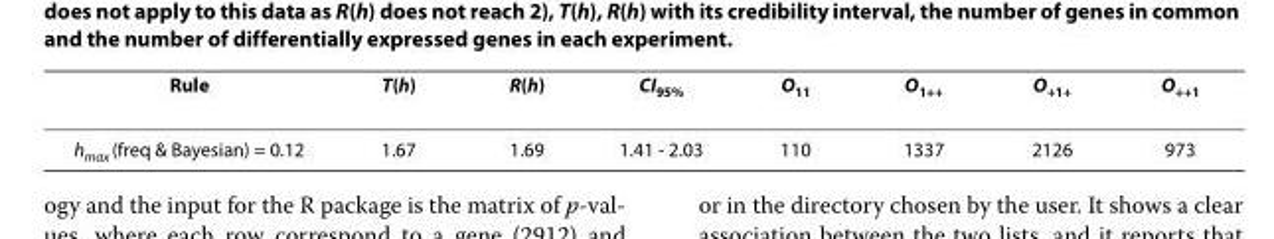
<table><thead><tr><td>Rule</td><td>T(h)</td><td>R(h)</td><td>CI<sub>95%</sub></td><td>O<sub>11</sub></td><td>O<sub>1++</sub></td><td>O<sub>+1+</sub></td><td>O<sub>++1</sub></td></tr></thead><tbody><tr><td>h<sub>max</sub> (freq &amp; Bayesian) = 0.12</td><td>1.67</td><td>1.69</td><td>1.41 - 2.03</td><td>110</td><td>1337</td><td>2126</td><td>973</td></tr></tbody></table>